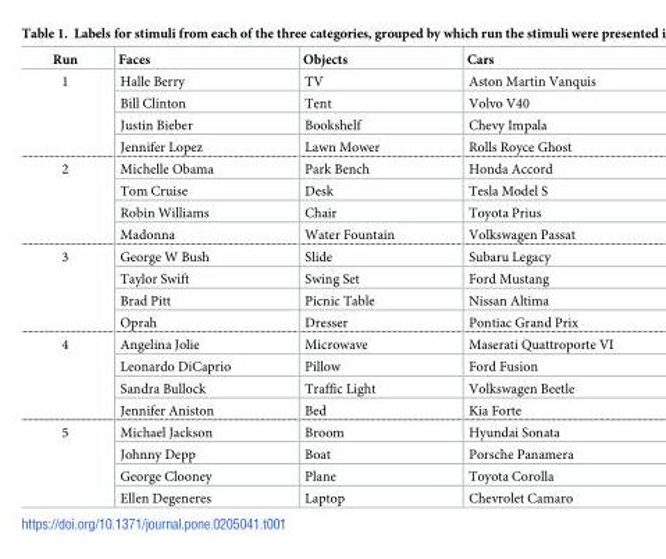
<table><thead><tr><td>Run</td><td>Faces</td><td>Objects</td><td>Cars</td></tr></thead><tbody><tr><td rowspan="4">1</td><td>Halle Berry</td><td>TV</td><td>Aston Martin Vanquis</td></tr><tr><td>Bill Clinton</td><td>Tent</td><td>Volvo V40</td></tr><tr><td>Justin Bieber</td><td>Bookshelf</td><td>Chevy Impala</td></tr><tr><td>Jennifer Lopez</td><td>Lawn Mower</td><td>Rolls Royce Ghost</td></tr><tr><td rowspan="4">2</td><td>Michelle Obama</td><td>Park Bench</td><td>Honda Accord</td></tr><tr><td>Tom Cruise</td><td>Desk</td><td>Tesla Model S</td></tr><tr><td>Robin Williams</td><td>Chair</td><td>Toyota Prius</td></tr><tr><td>Madonna</td><td>Water Fountain</td><td>Volkswagen Passat</td></tr><tr><td rowspan="4">3</td><td>George W Bush</td><td>Slide</td><td>Subaru Legacy</td></tr><tr><td>Taylor Swift</td><td>Swing Set</td><td>Ford Mustang</td></tr><tr><td>Brad Pitt</td><td>Picnic Table</td><td>Nissan Altima</td></tr><tr><td>Oprah</td><td>Dresser</td><td>Pontiac Grand Prix</td></tr><tr><td rowspan="4">4</td><td>Angelina Jolie</td><td>Microwave</td><td>Maserati Quattroporte VI</td></tr><tr><td>Leonardo DiCaprio</td><td>Pillow</td><td>Ford Fusion</td></tr><tr><td>Sandra Bullock</td><td>Traffic Light</td><td>Volkswagen Beetle</td></tr><tr><td>Jennifer Aniston</td><td>Bed</td><td>Kia Forte</td></tr><tr><td rowspan="4">5</td><td>Michael Jackson</td><td>Broom</td><td>Hyundai Sonata</td></tr><tr><td>Johnny Depp</td><td>Boat</td><td>Porsche Panamera</td></tr><tr><td>George Clooney</td><td>Plane</td><td>Toyota Corolla</td></tr><tr><td>Ellen Degeneres</td><td>Laptop</td><td>Chevrolet Camaro</td></tr></tbody></table>